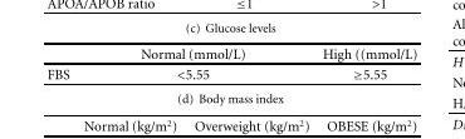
<table><thead><tr><td></td><td>Normal (mmol/L)</td><td>High ((mmol/L)</td></tr></thead><tbody><tr><td>FBS</td><td>&lt;5.55</td><td>≥5.55</td></tr></tbody></table>